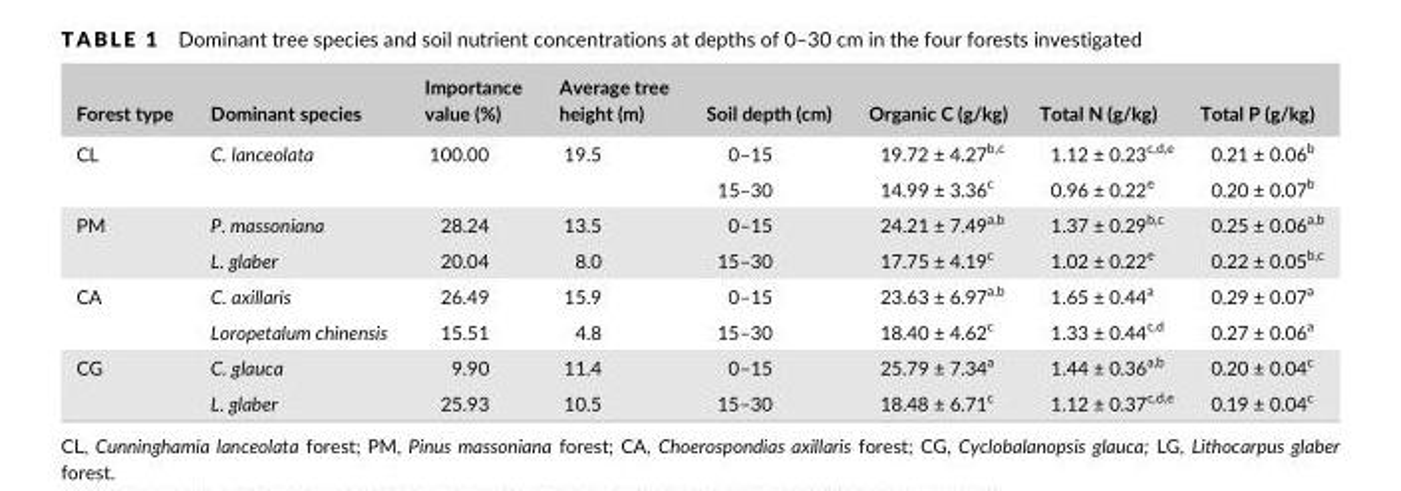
<table><thead><tr><td>Forest type</td><td>Dominant species</td><td>Importance value (%)</td><td>Average tree height (m)</td><td>Soil depth (cm)</td><td>Organic C (g/kg)</td><td>Total N (g/kg)</td><td>Total P (g/kg)</td></tr></thead><tbody><tr><td rowspan="2">CL</td><td rowspan="2">C. lanceolata</td><td>100.00</td><td>19.5</td><td>0–15</td><td>19.72 ± 4.27<sup>b,c</sup></td><td>1.12 ± 0.23<sup>c,d,e</sup></td><td>0.21 ± 0.06<sup>b</sup></td></tr><tr><td></td><td></td><td>15–30</td><td>14.99 ± 3.36<sup>c</sup></td><td>0.96 ± 0.22<sup>e</sup></td><td>0.20 ± 0.07<sup>b</sup></td></tr><tr><td rowspan="2">PM</td><td>P. massoniana</td><td>28.24</td><td>13.5</td><td>0–15</td><td>24.21 ± 7.49<sup>a,b</sup></td><td>1.37 ± 0.29<sup>b,c</sup></td><td>0.25 ± 0.06<sup>a,b</sup></td></tr><tr><td>L. glaber</td><td>20.04</td><td>8.0</td><td>15–30</td><td>17.75 ± 4.19<sup>c</sup></td><td>1.02 ± 0.22<sup>e</sup></td><td>0.22 ± 0.05<sup>b,c</sup></td></tr><tr><td rowspan="2">CA</td><td>C. axillaris</td><td>26.49</td><td>15.9</td><td>0–15</td><td>23.63 ± 6.97<sup>a,b</sup></td><td>1.65 ± 0.44<sup>a</sup></td><td>0.29 ± 0.07<sup>a</sup></td></tr><tr><td>Loropetalum chinensis</td><td>15.51</td><td>4.8</td><td>15–30</td><td>18.40 ± 4.62<sup>c</sup></td><td>1.33 ± 0.44<sup>c,d</sup></td><td>0.27 ± 0.06<sup>a</sup></td></tr><tr><td rowspan="2">CG</td><td>C. glauca</td><td>9.90</td><td>11.4</td><td>0–15</td><td>25.79 ± 7.34<sup>a</sup></td><td>1.44 ± 0.36<sup>a,b</sup></td><td>0.20 ± 0.04<sup>c</sup></td></tr><tr><td>L. glaber</td><td>25.93</td><td>10.5</td><td>15–30</td><td>18.48 ± 6.71<sup>c</sup></td><td>1.12 ± 0.37<sup>c,d,e</sup></td><td>0.19 ± 0.04<sup>c</sup></td></tr></tbody></table>